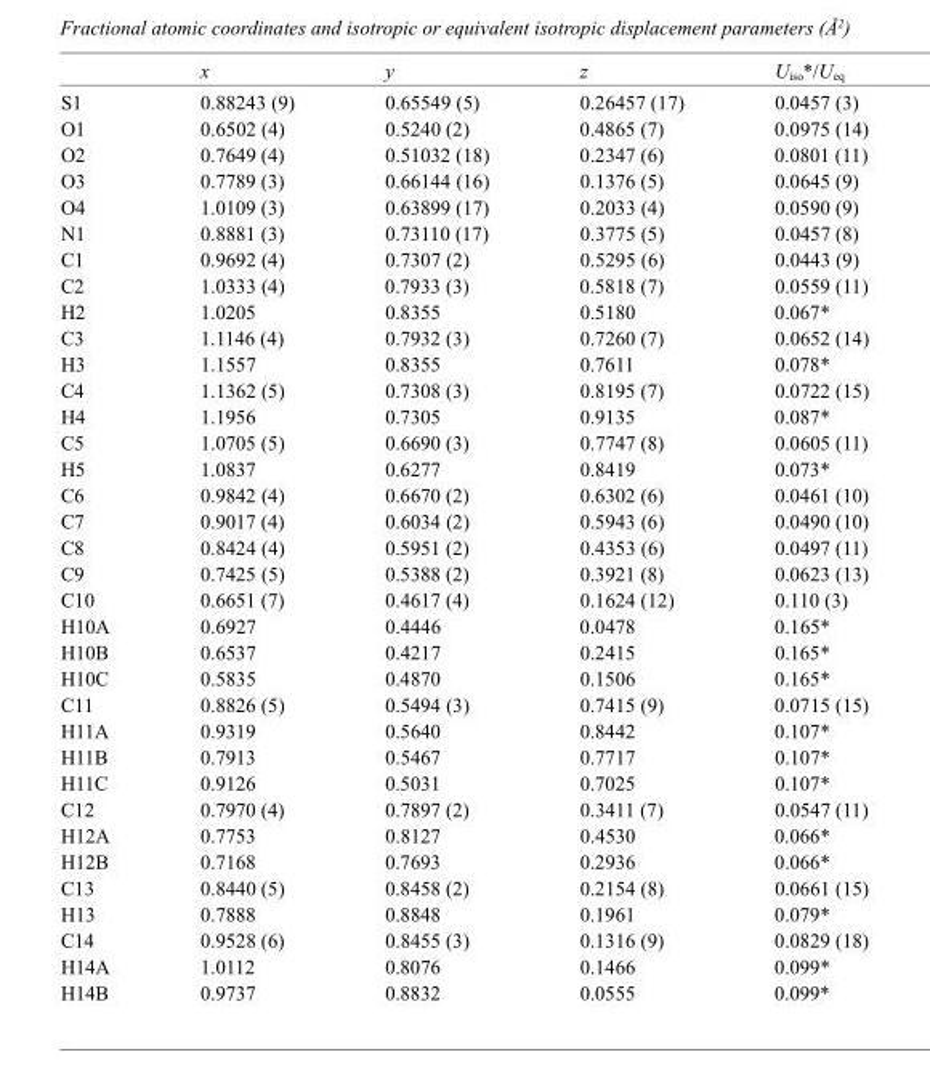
<table><thead><tr><td></td><td>x</td><td>y</td><td>z</td><td>U<sub>iso</sub>*/U<sub>eq</sub></td></tr></thead><tbody><tr><td>S1</td><td>0.88243 (9)</td><td>0.65549 (5)</td><td>0.26457 (17)</td><td>0.0457 (3)</td></tr><tr><td>O1</td><td>0.6502 (4)</td><td>0.5240 (2)</td><td>0.4865 (7)</td><td>0.0975 (14)</td></tr><tr><td>O2</td><td>0.7649 (4)</td><td>0.51032 (18)</td><td>0.2347 (6)</td><td>0.0801 (11)</td></tr><tr><td>O3</td><td>0.7789 (3)</td><td>0.66144 (16)</td><td>0.1376 (5)</td><td>0.0645 (9)</td></tr><tr><td>O4</td><td>1.0109 (3)</td><td>0.63899 (17)</td><td>0.2033 (4)</td><td>0.0590 (9)</td></tr><tr><td>N1</td><td>0.8881 (3)</td><td>0.73110 (17)</td><td>0.3775 (5)</td><td>0.0457 (8)</td></tr><tr><td>C1</td><td>0.9692 (4)</td><td>0.7307 (2)</td><td>0.5295 (6)</td><td>0.0443 (9)</td></tr><tr><td>C2</td><td>1.0333 (4)</td><td>0.7933 (3)</td><td>0.5818 (7)</td><td>0.0559 (11)</td></tr><tr><td>H2</td><td>1.0205</td><td>0.8355</td><td>0.5180</td><td>0.067*</td></tr><tr><td>C3</td><td>1.1146 (4)</td><td>0.7932 (3)</td><td>0.7260 (7)</td><td>0.0652 (14)</td></tr><tr><td>H3</td><td>1.1557</td><td>0.8355</td><td>0.7611</td><td>0.078*</td></tr><tr><td>C4</td><td>1.1362 (5)</td><td>0.7308 (3)</td><td>0.8195 (7)</td><td>0.0722 (15)</td></tr><tr><td>H4</td><td>1.1956</td><td>0.7305</td><td>0.9135</td><td>0.087*</td></tr><tr><td>C5</td><td>1.0705 (5)</td><td>0.6690 (3)</td><td>0.7747 (8)</td><td>0.0605 (11)</td></tr><tr><td>H5</td><td>1.0837</td><td>0.6277</td><td>0.8419</td><td>0.073*</td></tr><tr><td>C6</td><td>0.9842 (4)</td><td>0.6670 (2)</td><td>0.6302 (6)</td><td>0.0461 (10)</td></tr><tr><td>C7</td><td>0.9017 (4)</td><td>0.6034 (2)</td><td>0.5943 (6)</td><td>0.0490 (10)</td></tr><tr><td>C8</td><td>0.8424 (4)</td><td>0.5951 (2)</td><td>0.4353 (6)</td><td>0.0497 (11)</td></tr><tr><td>C9</td><td>0.7425 (5)</td><td>0.5388 (2)</td><td>0.3921 (8)</td><td>0.0623 (13)</td></tr><tr><td>C10</td><td>0.6651 (7)</td><td>0.4617 (4)</td><td>0.1624 (12)</td><td>0.110 (3)</td></tr><tr><td>H10A</td><td>0.6927</td><td>0.4446</td><td>0.0478</td><td>0.165*</td></tr><tr><td>H10B</td><td>0.6537</td><td>0.4217</td><td>0.2415</td><td>0.165*</td></tr><tr><td>H10C</td><td>0.5835</td><td>0.4870</td><td>0.1506</td><td>0.165*</td></tr><tr><td>C11</td><td>0.8826 (5)</td><td>0.5494 (3)</td><td>0.7415 (9)</td><td>0.0715 (15)</td></tr><tr><td>H11A</td><td>0.9319</td><td>0.5640</td><td>0.8442</td><td>0.107*</td></tr><tr><td>H11B</td><td>0.7913</td><td>0.5467</td><td>0.7717</td><td>0.107*</td></tr><tr><td>H11C</td><td>0.9126</td><td>0.5031</td><td>0.7025</td><td>0.107*</td></tr><tr><td>C12</td><td>0.7970 (4)</td><td>0.7897 (2)</td><td>0.3411 (7)</td><td>0.0547 (11)</td></tr><tr><td>H12A</td><td>0.7753</td><td>0.8127</td><td>0.4530</td><td>0.066*</td></tr><tr><td>H12B</td><td>0.7168</td><td>0.7693</td><td>0.2936</td><td>0.066*</td></tr><tr><td>C13</td><td>0.8440 (5)</td><td>0.8458 (2)</td><td>0.2154 (8)</td><td>0.0661 (15)</td></tr><tr><td>H13</td><td>0.7888</td><td>0.8848</td><td>0.1961</td><td>0.079*</td></tr><tr><td>C14</td><td>0.9528 (6)</td><td>0.8455 (3)</td><td>0.1316 (9)</td><td>0.0829 (18)</td></tr><tr><td>H14A</td><td>1.0112</td><td>0.8076</td><td>0.1466</td><td>0.099*</td></tr><tr><td>H14B</td><td>0.9737</td><td>0.8832</td><td>0.0555</td><td>0.099*</td></tr></tbody></table>